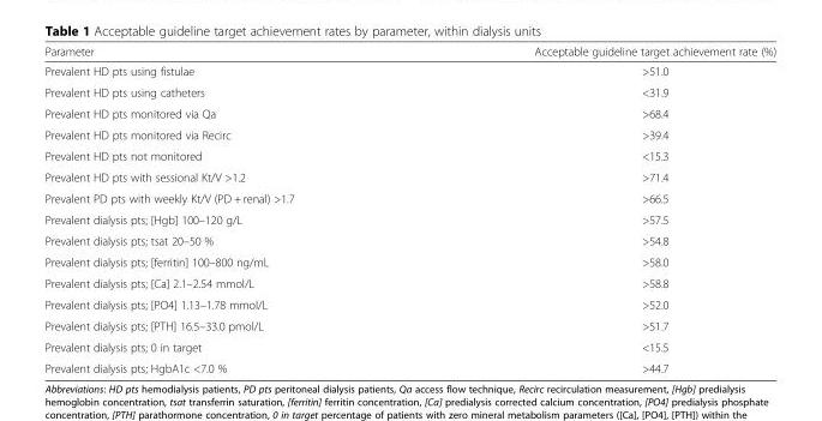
<table><thead><tr><td>Parameter</td><td>Acceptable guideline target achievement rate (%)</td></tr></thead><tbody><tr><td>Prevalent HD pts using fistulae</td><td>&gt;51.0</td></tr><tr><td>Prevalent HD pts using catheters</td><td>&lt;31.9</td></tr><tr><td>Prevalent HD pts monitored via Qa</td><td>&gt;68.4</td></tr><tr><td>Prevalent HD pts monitored via Recirc</td><td>&gt;39.4</td></tr><tr><td>Prevalent HD pts not monitored</td><td>&lt;15.3</td></tr><tr><td>Prevalent HD pts with sessional Kt/V &gt;1.2</td><td>&gt;71.4</td></tr><tr><td>Prevalent PD pts with weekly Kt/V (PD + renal) &gt;1.7</td><td>&gt;66.5</td></tr><tr><td>Prevalent dialysis pts; [Hgb] 100–120 g/L</td><td>&gt;57.5</td></tr><tr><td>Prevalent dialysis pts; tsat 20–50 %</td><td>&gt;54.8</td></tr><tr><td>Prevalent dialysis pts; [ferritin] 100–800 ng/mL</td><td>&gt;58.0</td></tr><tr><td>Prevalent dialysis pts; [Ca] 2.1–2.54 mmol/L</td><td>&gt;58.8</td></tr><tr><td>Prevalent dialysis pts; [PO4] 1.13–1.78 mmol/L</td><td>&gt;52.0</td></tr><tr><td>Prevalent dialysis pts; [PTH] 16.5–33.0 pmol/L</td><td>&gt;51.7</td></tr><tr><td>Prevalent dialysis pts; 0 in target</td><td>&lt;15.5</td></tr><tr><td>Prevalent dialysis pts; HgbA1c &lt;7.0 %</td><td>&gt;44.7</td></tr></tbody></table>